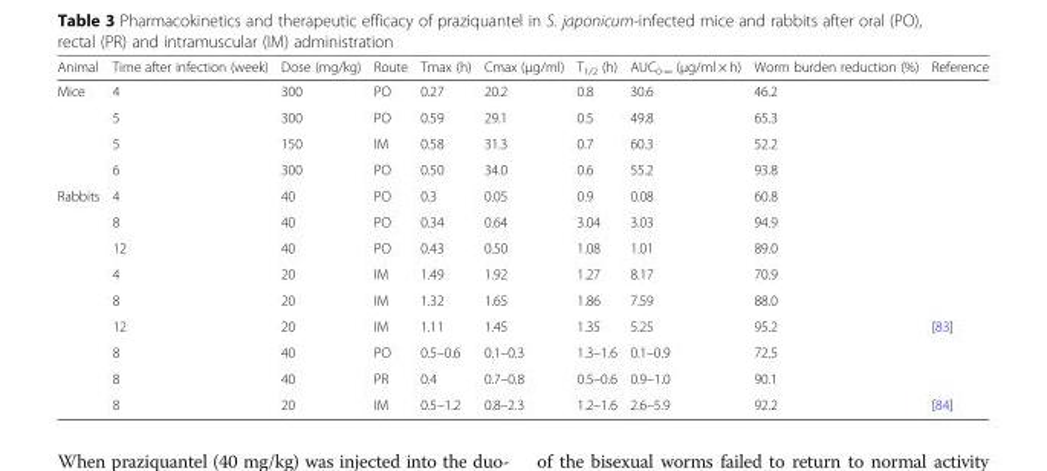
<table><thead><tr><td>Animal</td><td>Time after infection (week)</td><td>Dose (mg/kg)</td><td>Route</td><td>Tmax (h)</td><td>Cmax (μg/ml)</td><td>T<sub>1/2</sub> (h)</td><td>AUC<sub>0-∞</sub> (μg/ml × h)</td><td>Worm burden reduction (%)</td><td>Reference</td></tr></thead><tbody><tr><td rowspan="4">Mice</td><td>4</td><td>300</td><td>PO</td><td>0.27</td><td>20.2</td><td>0.8</td><td>30.6</td><td>46.2</td><td></td></tr><tr><td>5</td><td>300</td><td>PO</td><td>0.59</td><td>29.1</td><td>0.5</td><td>49.8</td><td>65.3</td><td></td></tr><tr><td>5</td><td>150</td><td>IM</td><td>0.58</td><td>31.3</td><td>0.7</td><td>60.3</td><td>52.2</td><td></td></tr><tr><td>6</td><td>300</td><td>PO</td><td>0.50</td><td>34.0</td><td>0.6</td><td>55.2</td><td>93.8</td><td></td></tr><tr><td rowspan="9">Rabbits</td><td>4</td><td>40</td><td>PO</td><td>0.3</td><td>0.05</td><td>0.9</td><td>0.08</td><td>60.8</td><td></td></tr><tr><td>8</td><td>40</td><td>PO</td><td>0.34</td><td>0.64</td><td>3.04</td><td>3.03</td><td>94.9</td><td></td></tr><tr><td>12</td><td>40</td><td>PO</td><td>0.43</td><td>0.50</td><td>1.08</td><td>1.01</td><td>89.0</td><td></td></tr><tr><td>4</td><td>20</td><td>IM</td><td>1.49</td><td>1.92</td><td>1.27</td><td>8.17</td><td>70.9</td><td></td></tr><tr><td>8</td><td>20</td><td>IM</td><td>1.32</td><td>1.65</td><td>1.86</td><td>7.59</td><td>88.0</td><td></td></tr><tr><td>12</td><td>20</td><td>IM</td><td>1.11</td><td>1.45</td><td>1.35</td><td>5.25</td><td>95.2</td><td>[83]</td></tr><tr><td>8</td><td>40</td><td>PO</td><td>0.5–0.6</td><td>0.1–0.3</td><td>1.3–1.6</td><td>0.1–0.9</td><td>72.5</td><td></td></tr><tr><td>8</td><td>40</td><td>PR</td><td>0.4</td><td>0.7–0.8</td><td>0.5–0.6</td><td>0.9–1.0</td><td>90.1</td><td></td></tr><tr><td>8</td><td>20</td><td>IM</td><td>0.5–1.2</td><td>0.8–2.3</td><td>1.2–1.6</td><td>2.6–5.9</td><td>92.2</td><td>[84]</td></tr></tbody></table>